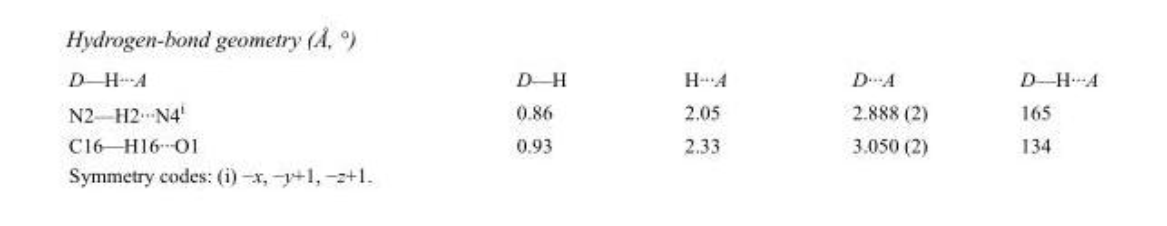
<table><tbody><tr><td>D—H···A</td><td>D—H</td><td>H···A</td><td>D···A</td><td>D—H···A</td></tr><tr><td>N2—H2···N4<sup>i</sup></td><td>0.86</td><td>2.05</td><td>2.888 (2)</td><td>165</td></tr><tr><td>C16—H16···O1</td><td>0.93</td><td>2.33</td><td>3.050 (2)</td><td>134</td></tr></tbody></table>